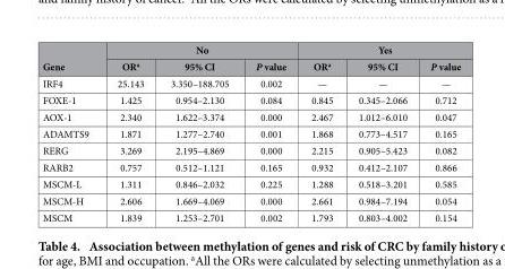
<table><thead><tr><td rowspan="2">Gene</td><td colspan="3">No</td><td colspan="3">Yes</td></tr><tr><td>OR<sup>a</sup></td><td>95% CI</td><td>P value</td><td>OR<sup>a</sup></td><td>95% CI</td><td>P value</td></tr></thead><tbody><tr><td>IRF4</td><td>25.143</td><td>3.350–188.705</td><td>0.002</td><td>—</td><td>—</td><td>—</td></tr><tr><td>FOXE-1</td><td>1.425</td><td>0.954–2.130</td><td>0.084</td><td>0.845</td><td>0.345–2.066</td><td>0.712</td></tr><tr><td>AOX-1</td><td>2.340</td><td>1.622–3.374</td><td>0.000</td><td>2.467</td><td>1.012–6.010</td><td>0.047</td></tr><tr><td>ADAMTS9</td><td>1.871</td><td>1.277–2.740</td><td>0.001</td><td>1.868</td><td>0.773–4.517</td><td>0.165</td></tr><tr><td>RERG</td><td>3.269</td><td>2.195–4.869</td><td>0.000</td><td>2.215</td><td>0.905–5.423</td><td>0.082</td></tr><tr><td>RARB2</td><td>0.757</td><td>0.512–1.121</td><td>0.165</td><td>0.932</td><td>0.412–2.107</td><td>0.866</td></tr><tr><td>MSCM-L</td><td>1.311</td><td>0.846–2.032</td><td>0.225</td><td>1.288</td><td>0.518–3.201</td><td>0.585</td></tr><tr><td>MSCM-H</td><td>2.606</td><td>1.669–4.069</td><td>0.000</td><td>2.661</td><td>0.984–7.194</td><td>0.054</td></tr><tr><td>MSCM</td><td>1.839</td><td>1.253–2.701</td><td>0.002</td><td>1.793</td><td>0.803–4.002</td><td>0.154</td></tr></tbody></table>